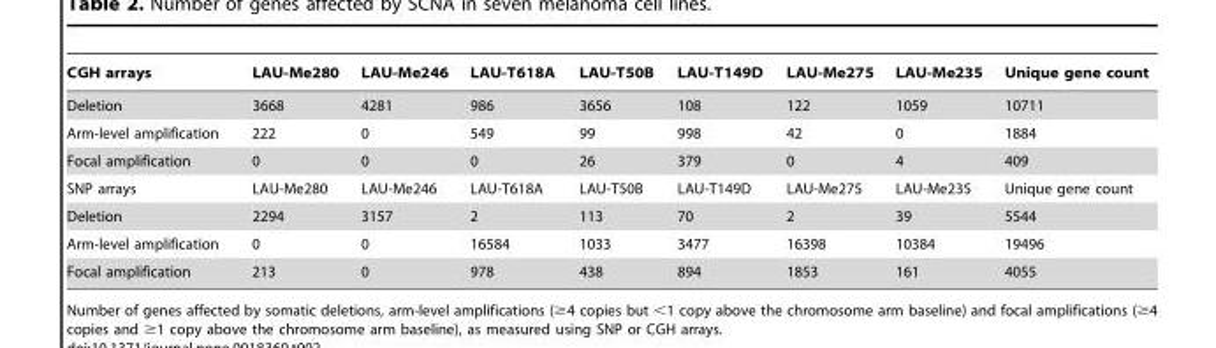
<table><thead><tr><td>CGH arrays</td><td>LAU-Me280</td><td>LAU-Me246</td><td>LAU-T618A</td><td>LAU-T50B</td><td>LAU-T149D</td><td>LAU-Me275</td><td>LAU-Me235</td><td>Unique gene count</td></tr></thead><tbody><tr><td>Deletion</td><td>3668</td><td>4281</td><td>986</td><td>3656</td><td>108</td><td>122</td><td>1059</td><td>10711</td></tr><tr><td>Arm-level amplification</td><td>222</td><td>0</td><td>549</td><td>99</td><td>998</td><td>42</td><td>0</td><td>1884</td></tr><tr><td>Focal amplification</td><td>0</td><td>0</td><td>0</td><td>26</td><td>379</td><td>0</td><td>4</td><td>409</td></tr><tr><td>SNP arrays</td><td>LAU-Me280</td><td>LAU-Me246</td><td>LAU-T618A</td><td>LAU-T50B</td><td>LAU-T149D</td><td>LAU-Me275</td><td>LAU-Me235</td><td>Unique gene count</td></tr><tr><td>Deletion</td><td>2294</td><td>3157</td><td>2</td><td>113</td><td>70</td><td>2</td><td>39</td><td>5544</td></tr><tr><td>Arm-level amplification</td><td>0</td><td>0</td><td>16584</td><td>1033</td><td>3477</td><td>16398</td><td>10384</td><td>19496</td></tr><tr><td>Focal amplification</td><td>213</td><td>0</td><td>978</td><td>438</td><td>894</td><td>1853</td><td>161</td><td>4055</td></tr></tbody></table>